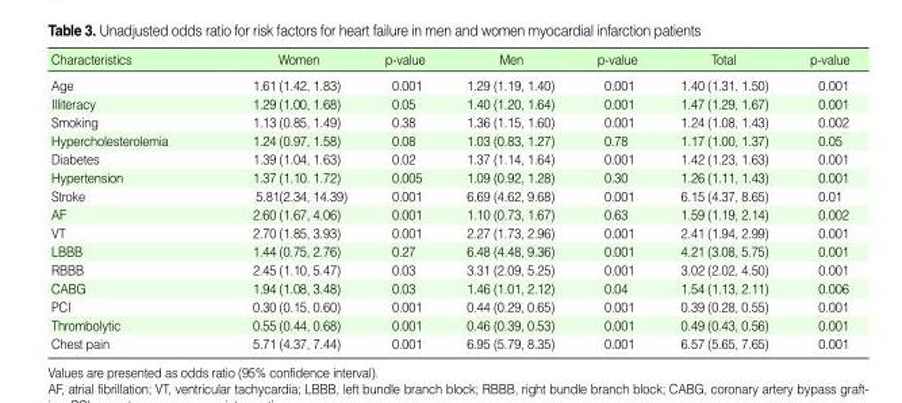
<table><thead><tr><td>Characteristics</td><td>Women</td><td>p-value</td><td>Men</td><td>p-value</td><td>Total</td><td>p-value</td></tr></thead><tbody><tr><td>Age</td><td>1.61 (1.42, 1.83)</td><td>0.001</td><td>1.29 (1.19, 1.40)</td><td>0.001</td><td>1.40 (1.31, 1.50)</td><td>0.001</td></tr><tr><td>Illiteracy</td><td>1.29 (1.00, 1.68)</td><td>0.05</td><td>1.40 (1.20, 1.64)</td><td>0.001</td><td>1.47 (1.29, 1.67)</td><td>0.001</td></tr><tr><td>Smoking</td><td>1.13 (0.85, 1.49)</td><td>0.38</td><td>1.36 (1.15, 1.60)</td><td>0.001</td><td>1.24 (1.08, 1.43)</td><td>0.002</td></tr><tr><td>Hypercholesterolemia</td><td>1.24 (0.97, 1.58)</td><td>0.08</td><td>1.03 (0.83, 1.27)</td><td>0.78</td><td>1.17 (1.00, 1.37)</td><td>0.05</td></tr><tr><td>Diabetes</td><td>1.39 (1.04, 1.63)</td><td>0.02</td><td>1.37 (1.14, 1.64)</td><td>0.001</td><td>1.42 (1.23, 1.63)</td><td>0.001</td></tr><tr><td>Hypertension</td><td>1.37 (1.10. 1.72)</td><td>0.005</td><td>1.09 (0.92, 1.28)</td><td>0.30</td><td>1.26 (1.11, 1.43)</td><td>0.001</td></tr><tr><td>Stroke</td><td>5.81(2.34, 14.39)</td><td>0.001</td><td>6.69 (4.62, 9.68)</td><td>0.001</td><td>6.15 (4.37, 8.65)</td><td>0.01</td></tr><tr><td>AF</td><td>2.60 (1.67, 4.06)</td><td>0.001</td><td>1.10 (0.73, 1.67)</td><td>0.63</td><td>1.59 (1.19, 2.14)</td><td>0.002</td></tr><tr><td>VT</td><td>2.70 (1.85, 3.93)</td><td>0.001</td><td>2.27 (1.73, 2.96)</td><td>0.001</td><td>2.41 (1.94, 2.99)</td><td>0.001</td></tr><tr><td>LBBB</td><td>1.44 (0.75, 2.76)</td><td>0.27</td><td>6.48 (4.48, 9.36)</td><td>0.001</td><td>4.21 (3.08, 5.75)</td><td>0.001</td></tr><tr><td>RBBB</td><td>2.45 (1.10, 5.47)</td><td>0.03</td><td>3.31 (2.09, 5.25)</td><td>0.001</td><td>3.02 (2.02, 4.50)</td><td>0.001</td></tr><tr><td>CABG</td><td>1.94 (1.08, 3.48)</td><td>0.03</td><td>1.46 (1.01, 2.12)</td><td>0.04</td><td>1.54 (1.13, 2.11)</td><td>0.006</td></tr><tr><td>PCI</td><td>0.30 (0.15, 0.60)</td><td>0.001</td><td>0.44 (0.29, 0.65)</td><td>0.001</td><td>0.39 (0.28, 0.55)</td><td>0.001</td></tr><tr><td>Thrombolytic</td><td>0.55 (0.44, 0.68)</td><td>0.001</td><td>0.46 (0.39, 0.53)</td><td>0.001</td><td>0.49 (0.43, 0.56)</td><td>0.001</td></tr><tr><td>Chest pain</td><td>5.71 (4.37, 7.44)</td><td>0.001</td><td>6.95 (5.79, 8.35)</td><td>0.001</td><td>6.57 (5.65, 7.65)</td><td>0.001</td></tr></tbody></table>